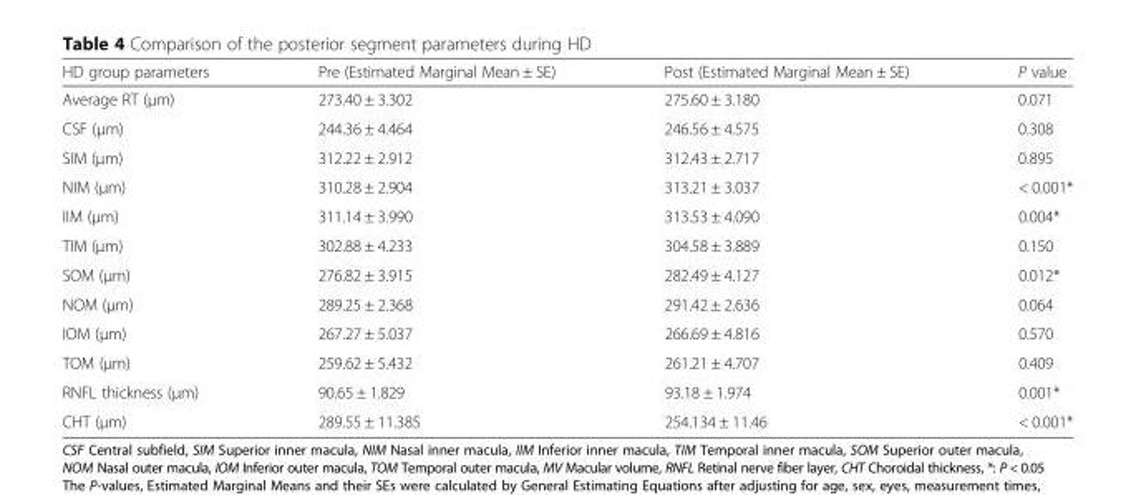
<table><thead><tr><td>HD group parameters</td><td>Pre (Estimated Marginal Mean ± SE)</td><td>Post (Estimated Marginal Mean ± SE)</td><td>P value</td></tr></thead><tbody><tr><td>Average RT (μm)</td><td>273.40 ± 3.302</td><td>275.60 ± 3.180</td><td>0.071</td></tr><tr><td>CSF (μm)</td><td>244.36 ± 4.464</td><td>246.56 ± 4.575</td><td>0.308</td></tr><tr><td>SIM (μm)</td><td>312.22 ± 2.912</td><td>312.43 ± 2.717</td><td>0.895</td></tr><tr><td>NIM (μm)</td><td>310.28 ± 2.904</td><td>313.21 ± 3.037</td><td>&lt; 0.001*</td></tr><tr><td>IIM (μm)</td><td>311.14 ± 3.990</td><td>313.53 ± 4.090</td><td>0.004*</td></tr><tr><td>TIM (μm)</td><td>302.88 ± 4.233</td><td>304.58 ± 3.889</td><td>0.150</td></tr><tr><td>SOM (μm)</td><td>276.82 ± 3.915</td><td>282.49 ± 4.127</td><td>0.012*</td></tr><tr><td>NOM (μm)</td><td>289.25 ± 2.368</td><td>291.42 ± 2.636</td><td>0.064</td></tr><tr><td>IOM (μm)</td><td>267.27 ± 5.037</td><td>266.69 ± 4.816</td><td>0.570</td></tr><tr><td>TOM (μm)</td><td>259.62 ± 5.432</td><td>261.21 ± 4.707</td><td>0.409</td></tr><tr><td>RNFL thickness (μm)</td><td>90.65 ± 1.829</td><td>93.18 ± 1.974</td><td>0.001*</td></tr><tr><td>CHT (μm)</td><td>289.55 ± 11.385</td><td>254.134 ± 11.46</td><td>&lt; 0.001*</td></tr></tbody></table>